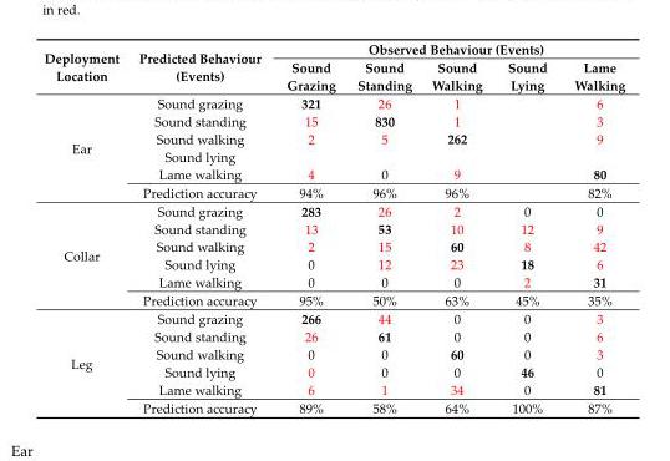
<table><thead><tr><td rowspan="2">Deployment Location</td><td rowspan="2">Predicted Behaviour (Events)</td><td colspan="5">Observed Behaviour (Events)</td></tr><tr><td>Sound Grazing</td><td>Sound Standing</td><td>Sound Walking</td><td>Sound Lying</td><td>Lame Walking</td></tr></thead><tbody><tr><td rowspan="6">Ear</td><td>Sound grazing</td><td>321</td><td>26</td><td>1</td><td></td><td>6</td></tr><tr><td>Sound standing</td><td>15</td><td>830</td><td>1</td><td></td><td>3</td></tr><tr><td>Sound walking</td><td>2</td><td>5</td><td>262</td><td></td><td>9</td></tr><tr><td>Sound lying</td><td></td><td></td><td></td><td></td><td></td></tr><tr><td>Lame walking</td><td>4</td><td>0</td><td>9</td><td></td><td>80</td></tr><tr><td>Prediction accuracy</td><td>94%</td><td>96%</td><td>96%</td><td></td><td>82%</td></tr><tr><td rowspan="6">Collar</td><td>Sound grazing</td><td>283</td><td>26</td><td>2</td><td>0</td><td>0</td></tr><tr><td>Sound standing</td><td>13</td><td>53</td><td>10</td><td>12</td><td>9</td></tr><tr><td>Sound walking</td><td>2</td><td>15</td><td>60</td><td>8</td><td>42</td></tr><tr><td>Sound lying</td><td>0</td><td>12</td><td>23</td><td>18</td><td>6</td></tr><tr><td>Lame walking</td><td>0</td><td>0</td><td>0</td><td>2</td><td>31</td></tr><tr><td>Prediction accuracy</td><td>95%</td><td>50%</td><td>63%</td><td>45%</td><td>35%</td></tr><tr><td rowspan="6">Leg</td><td>Sound grazing</td><td>266</td><td>44</td><td>0</td><td>0</td><td>3</td></tr><tr><td>Sound standing</td><td>26</td><td>61</td><td>0</td><td>0</td><td>6</td></tr><tr><td>Sound walking</td><td>0</td><td>0</td><td>60</td><td>0</td><td>3</td></tr><tr><td>Sound lying</td><td>0</td><td>0</td><td>0</td><td>46</td><td>0</td></tr><tr><td>Lame walking</td><td>6</td><td>1</td><td>34</td><td>0</td><td>81</td></tr><tr><td>Prediction accuracy</td><td>89%</td><td>58%</td><td>64%</td><td>100%</td><td>87%</td></tr></tbody></table>